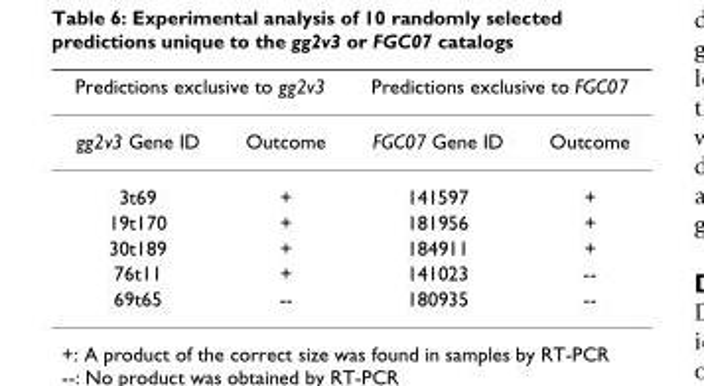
<table><thead><tr><td colspan="2">Predictions exclusive to gg2v3</td><td colspan="2">Predictions exclusive to FGC07</td></tr><tr><td>gg2v3 Gene ID</td><td>Outcome</td><td>FGC07 Gene ID</td><td>Outcome</td></tr></thead><tbody><tr><td>3t69</td><td>+</td><td>141597</td><td>+</td></tr><tr><td>19t170</td><td>+</td><td>181956</td><td>+</td></tr><tr><td>30t189</td><td>+</td><td>184911</td><td>+</td></tr><tr><td>76t11</td><td>+</td><td>141023</td><td>--</td></tr><tr><td>69t65</td><td>--</td><td>180935</td><td>--</td></tr></tbody></table>